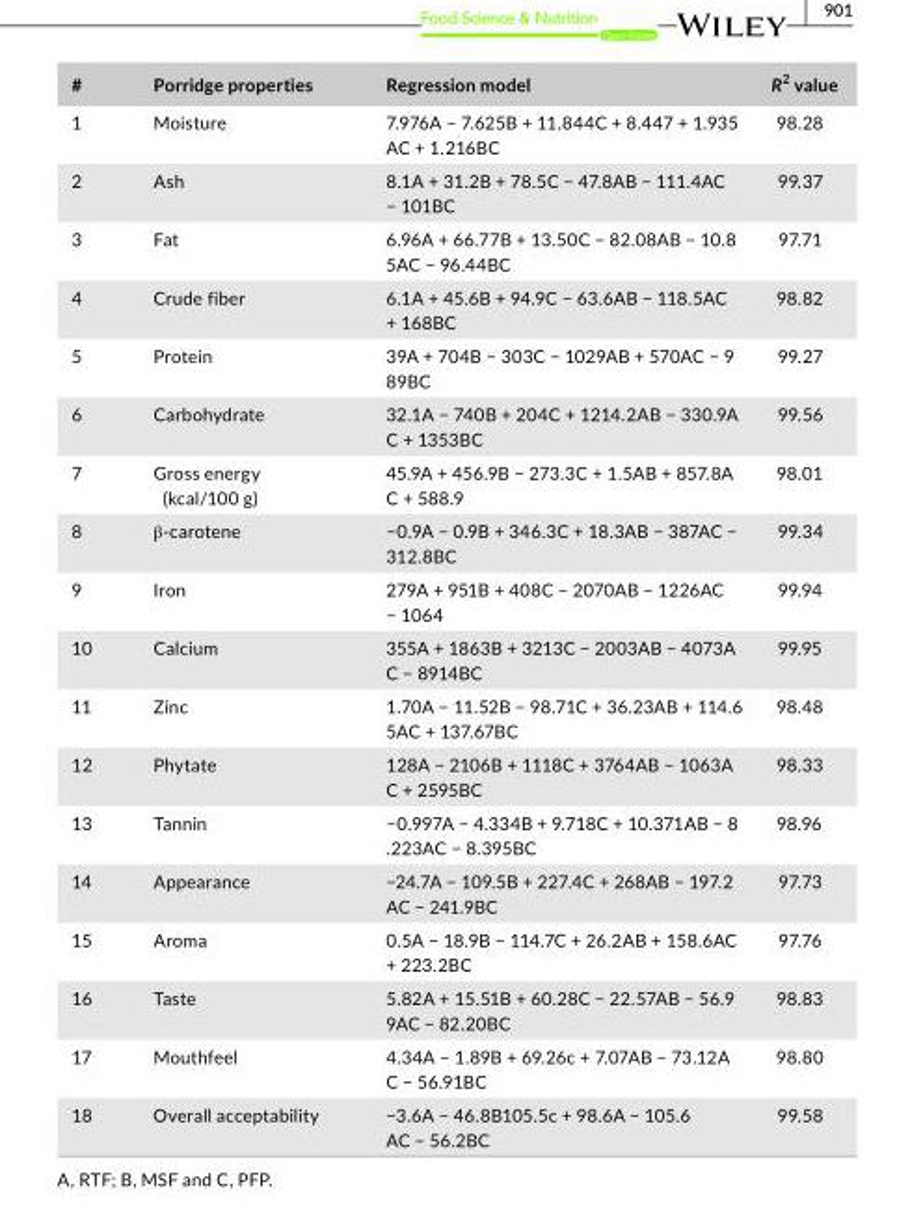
<table><thead><tr><td>#</td><td>Porridge properties</td><td>Regression model</td><td>R<sup>2</sup> value</td></tr></thead><tbody><tr><td>1</td><td>Moisture</td><td>7.976A − 7.625B + 11.844C + 8.447 + 1.935 AC + 1.216BC</td><td>98.28</td></tr><tr><td>2</td><td>Ash</td><td>8.1A + 31.2B + 78.5C − 47.8AB − 111.4AC − 101BC</td><td>99.37</td></tr><tr><td>3</td><td>Fat</td><td>6.96A + 66.77B + 13.50C − 82.08AB − 10.8 5AC − 96.44BC</td><td>97.71</td></tr><tr><td>4</td><td>Crude fiber</td><td>6.1A + 45.6B + 94.9C − 63.6AB − 118.5AC + 168BC</td><td>98.82</td></tr><tr><td>5</td><td>Protein</td><td>39A + 704B − 303C − 1029AB + 570AC − 9 89BC</td><td>99.27</td></tr><tr><td>6</td><td>Carbohydrate</td><td>32.1A − 740B + 204C + 1214.2AB − 330.9A C + 1353BC</td><td>99.56</td></tr><tr><td>7</td><td>Gross energy (kcal/100 g)</td><td>45.9A + 456.9B − 273.3C + 1.5AB + 857.8A C + 588.9</td><td>98.01</td></tr><tr><td>8</td><td>β- carotene</td><td>−0.9A − 0.9B + 346.3C + 18.3AB − 387AC − 312.8BC</td><td>99.34</td></tr><tr><td>9</td><td>Iron</td><td>279A + 951B + 408C − 2070AB − 1226AC − 1064</td><td>99.94</td></tr><tr><td>10</td><td>Calcium</td><td>355A + 1863B + 3213C − 2003AB − 4073A C − 8914BC</td><td>99.95</td></tr><tr><td>11</td><td>Zinc</td><td>1.70A − 11.52B − 98.71C + 36.23AB + 114.6 5AC + 137.67BC</td><td>98.48</td></tr><tr><td>12</td><td>Phytate</td><td>128A − 2106B + 1118C + 3764AB − 1063A C + 2595BC</td><td>98.33</td></tr><tr><td>13</td><td>Tannin</td><td>−0.997A − 4.334B + 9.718C + 10.371AB − 8 .223AC − 8.395BC</td><td>98.96</td></tr><tr><td>14</td><td>Appearance</td><td>−24.7A − 109.5B + 227.4C + 268AB − 197.2 AC − 241.9BC</td><td>97.73</td></tr><tr><td>15</td><td>Aroma</td><td>0.5A − 18.9B − 114.7C + 26.2AB + 158.6AC + 223.2BC</td><td>97.76</td></tr><tr><td>16</td><td>Taste</td><td>5.82A + 15.51B + 60.28C − 22.57AB − 56.9 9AC − 82.20BC</td><td>98.83</td></tr><tr><td>17</td><td>Mouthfeel</td><td>4.34A − 1.89B + 69.26c + 7.07AB − 73.12A C − 56.91BC</td><td>98.80</td></tr><tr><td>18</td><td>Overall acceptability</td><td>−3.6A − 46.8B105.5c + 98.6A − 105.6 AC − 56.2BC</td><td>99.58</td></tr></tbody></table>